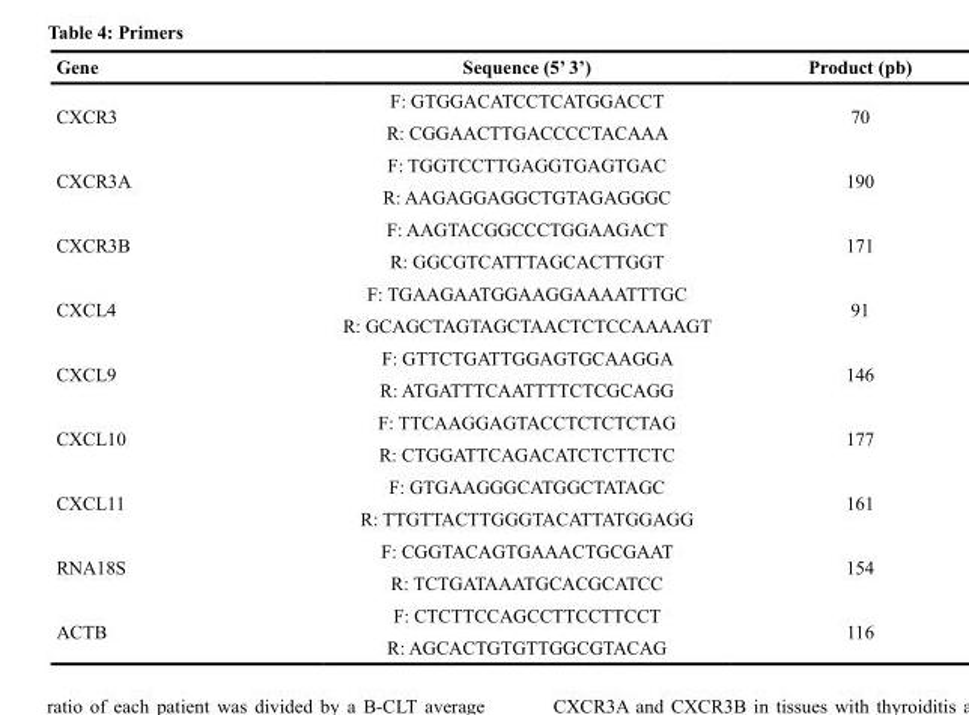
<table><thead><tr><td>Gene</td><td>Sequence (5’ 3’)</td><td>Product (pb)</td></tr></thead><tbody><tr><td rowspan="2">CXCR3</td><td>F: GTGGACATCCTCATGGACCT</td><td rowspan="2">70</td></tr><tr><td>R: CGGAACTTGACCCCTACAAA</td></tr><tr><td rowspan="2">CXCR3A</td><td>F: TGGTCCTTGAGGTGAGTGAC</td><td rowspan="2">190</td></tr><tr><td>R: AAGAGGAGGCTGTAGAGGGC</td></tr><tr><td rowspan="2">CXCR3B</td><td>F: AAGTACGGCCCTGGAAGACT</td><td rowspan="2">171</td></tr><tr><td>R: GGCGTCATTTAGCACTTGGT</td></tr><tr><td rowspan="2">CXCL4</td><td>F: TGAAGAATGGAAGGAAAATTTGC</td><td rowspan="2">91</td></tr><tr><td>R: GCAGCTAGTAGCTAACTCTCCAAAAGT</td></tr><tr><td rowspan="2">CXCL9</td><td>F: GTTCTGATTGGAGTGCAAGGA</td><td rowspan="2">146</td></tr><tr><td>R: ATGATTTCAATTTTCTCGCAGG</td></tr><tr><td rowspan="2">CXCL10</td><td>F: TTCAAGGAGTACCTCTCTCTAG</td><td rowspan="2">177</td></tr><tr><td>R: CTGGATTCAGACATCTCTTCTC</td></tr><tr><td rowspan="2">CXCL11</td><td>F: GTGAAGGGCATGGCTATAGC</td><td rowspan="2">161</td></tr><tr><td>R: TTGTTACTTGGGTACATTATGGAGG</td></tr><tr><td rowspan="2">RNA18S</td><td>F: CGGTACAGTGAAACTGCGAAT</td><td rowspan="2">154</td></tr><tr><td>R: TCTGATAAATGCACGCATCC</td></tr><tr><td rowspan="2">ACTB</td><td>F: CTCTTCCAGCCTTCCTTCCT</td><td rowspan="2">116</td></tr><tr><td>R: AGCACTGTGTTGGCGTACAG</td></tr></tbody></table>